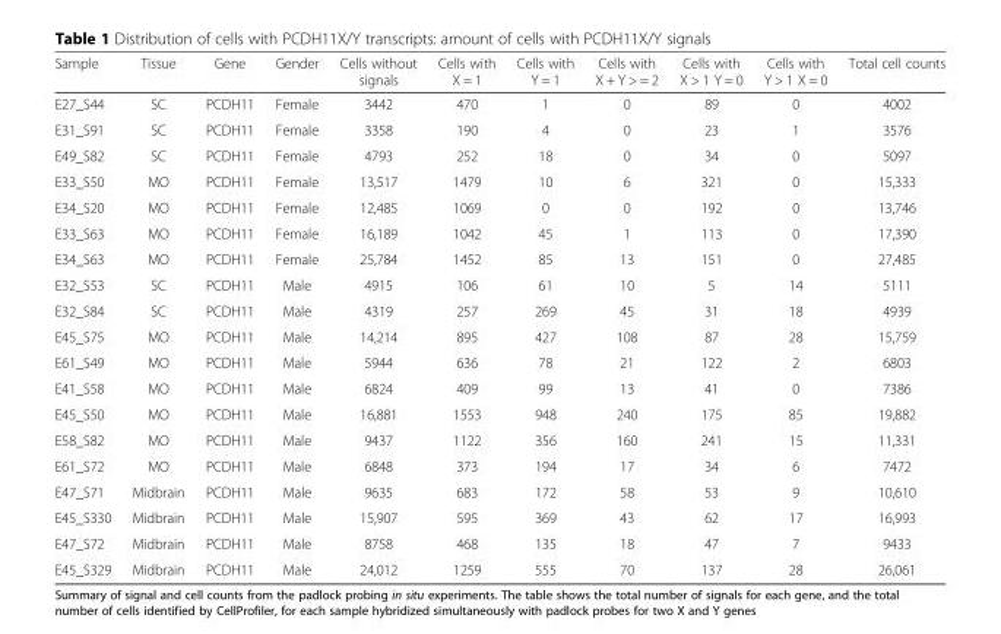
<table><thead><tr><td>Sample</td><td>Tissue</td><td>Gene</td><td>Gender</td><td>Cells without signals</td><td>Cells with X = 1</td><td>Cells with Y = 1</td><td>Cells with X + Y &gt; = 2</td><td>Cells with X &gt; 1 Y = 0</td><td>Cells with Y &gt; 1 X = 0</td><td>Total cell counts</td></tr></thead><tbody><tr><td>E27_S44</td><td>SC</td><td>PCDH11</td><td>Female</td><td>3442</td><td>470</td><td>1</td><td>0</td><td>89</td><td>0</td><td>4002</td></tr><tr><td>E31_S91</td><td>SC</td><td>PCDH11</td><td>Female</td><td>3358</td><td>190</td><td>4</td><td>0</td><td>23</td><td>1</td><td>3576</td></tr><tr><td>E49_S82</td><td>SC</td><td>PCDH11</td><td>Female</td><td>4793</td><td>252</td><td>18</td><td>0</td><td>34</td><td>0</td><td>5097</td></tr><tr><td>E33_S50</td><td>MO</td><td>PCDH11</td><td>Female</td><td>13,517</td><td>1479</td><td>10</td><td>6</td><td>321</td><td>0</td><td>15,333</td></tr><tr><td>E34_S20</td><td>MO</td><td>PCDH11</td><td>Female</td><td>12,485</td><td>1069</td><td>0</td><td>0</td><td>192</td><td>0</td><td>13,746</td></tr><tr><td>E33_S63</td><td>MO</td><td>PCDH11</td><td>Female</td><td>16,189</td><td>1042</td><td>45</td><td>1</td><td>113</td><td>0</td><td>17,390</td></tr><tr><td>E34_S63</td><td>MO</td><td>PCDH11</td><td>Female</td><td>25,784</td><td>1452</td><td>85</td><td>13</td><td>151</td><td>0</td><td>27,485</td></tr><tr><td>E32_S53</td><td>SC</td><td>PCDH11</td><td>Male</td><td>4915</td><td>106</td><td>61</td><td>10</td><td>5</td><td>14</td><td>5111</td></tr><tr><td>E32_S84</td><td>SC</td><td>PCDH11</td><td>Male</td><td>4319</td><td>257</td><td>269</td><td>45</td><td>31</td><td>18</td><td>4939</td></tr><tr><td>E45_S75</td><td>MO</td><td>PCDH11</td><td>Male</td><td>14,214</td><td>895</td><td>427</td><td>108</td><td>87</td><td>28</td><td>15,759</td></tr><tr><td>E61_S49</td><td>MO</td><td>PCDH11</td><td>Male</td><td>5944</td><td>636</td><td>78</td><td>21</td><td>122</td><td>2</td><td>6803</td></tr><tr><td>E41_S58</td><td>MO</td><td>PCDH11</td><td>Male</td><td>6824</td><td>409</td><td>99</td><td>13</td><td>41</td><td>0</td><td>7386</td></tr><tr><td>E45_S50</td><td>MO</td><td>PCDH11</td><td>Male</td><td>16,881</td><td>1553</td><td>948</td><td>240</td><td>175</td><td>85</td><td>19,882</td></tr><tr><td>E58_S82</td><td>MO</td><td>PCDH11</td><td>Male</td><td>9437</td><td>1122</td><td>356</td><td>160</td><td>241</td><td>15</td><td>11,331</td></tr><tr><td>E61_S72</td><td>MO</td><td>PCDH11</td><td>Male</td><td>6848</td><td>373</td><td>194</td><td>17</td><td>34</td><td>6</td><td>7472</td></tr><tr><td>E47_S71</td><td>Midbrain</td><td>PCDH11</td><td>Male</td><td>9635</td><td>683</td><td>172</td><td>58</td><td>53</td><td>9</td><td>10,610</td></tr><tr><td>E45_S330</td><td>Midbrain</td><td>PCDH11</td><td>Male</td><td>15,907</td><td>595</td><td>369</td><td>43</td><td>62</td><td>17</td><td>16,993</td></tr><tr><td>E47_S72</td><td>Midbrain</td><td>PCDH11</td><td>Male</td><td>8758</td><td>468</td><td>135</td><td>18</td><td>47</td><td>7</td><td>9433</td></tr><tr><td>E45_S329</td><td>Midbrain</td><td>PCDH11</td><td>Male</td><td>24,012</td><td>1259</td><td>555</td><td>70</td><td>137</td><td>28</td><td>26,061</td></tr></tbody></table>